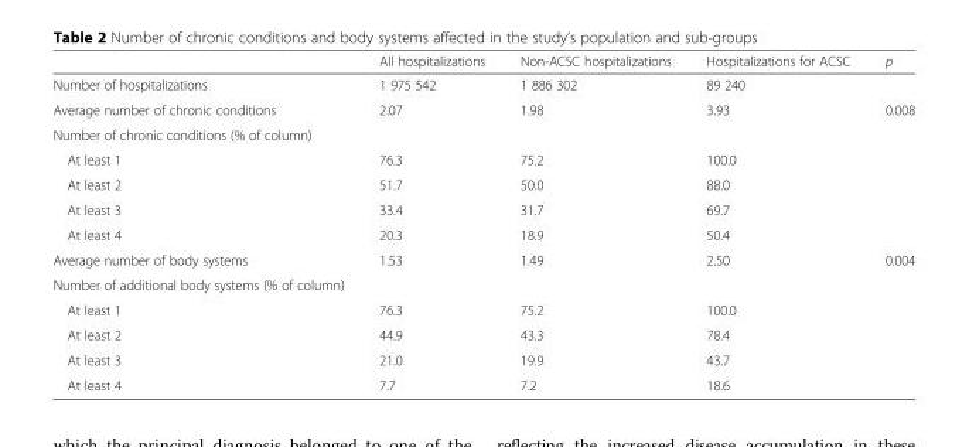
<table><thead><tr><td></td><td>All hospitalizations</td><td>Non-ACSC hospitalizations</td><td>Hospitalizations for ACSC</td><td>p</td></tr></thead><tbody><tr><td>Number of hospitalizations</td><td>1 975 542</td><td>1 886 302</td><td>89 240</td><td></td></tr><tr><td>Average number of chronic conditions</td><td>2.07</td><td>1.98</td><td>3.93</td><td>0.008</td></tr><tr><td colspan="5">Number of chronic conditions (% of column)</td></tr><tr><td>At least 1</td><td>76.3</td><td>75.2</td><td>100.0</td><td></td></tr><tr><td>At least 2</td><td>51.7</td><td>50.0</td><td>88.0</td><td></td></tr><tr><td>At least 3</td><td>33.4</td><td>31.7</td><td>69.7</td><td></td></tr><tr><td>At least 4</td><td>20.3</td><td>18.9</td><td>50.4</td><td></td></tr><tr><td>Average number of body systems</td><td>1.53</td><td>1.49</td><td>2.50</td><td>0.004</td></tr><tr><td colspan="5">Number of additional body systems (% of column)</td></tr><tr><td>At least 1</td><td>76.3</td><td>75.2</td><td>100.0</td><td></td></tr><tr><td>At least 2</td><td>44.9</td><td>43.3</td><td>78.4</td><td></td></tr><tr><td>At least 3</td><td>21.0</td><td>19.9</td><td>43.7</td><td></td></tr><tr><td>At least 4</td><td>7.7</td><td>7.2</td><td>18.6</td><td></td></tr></tbody></table>